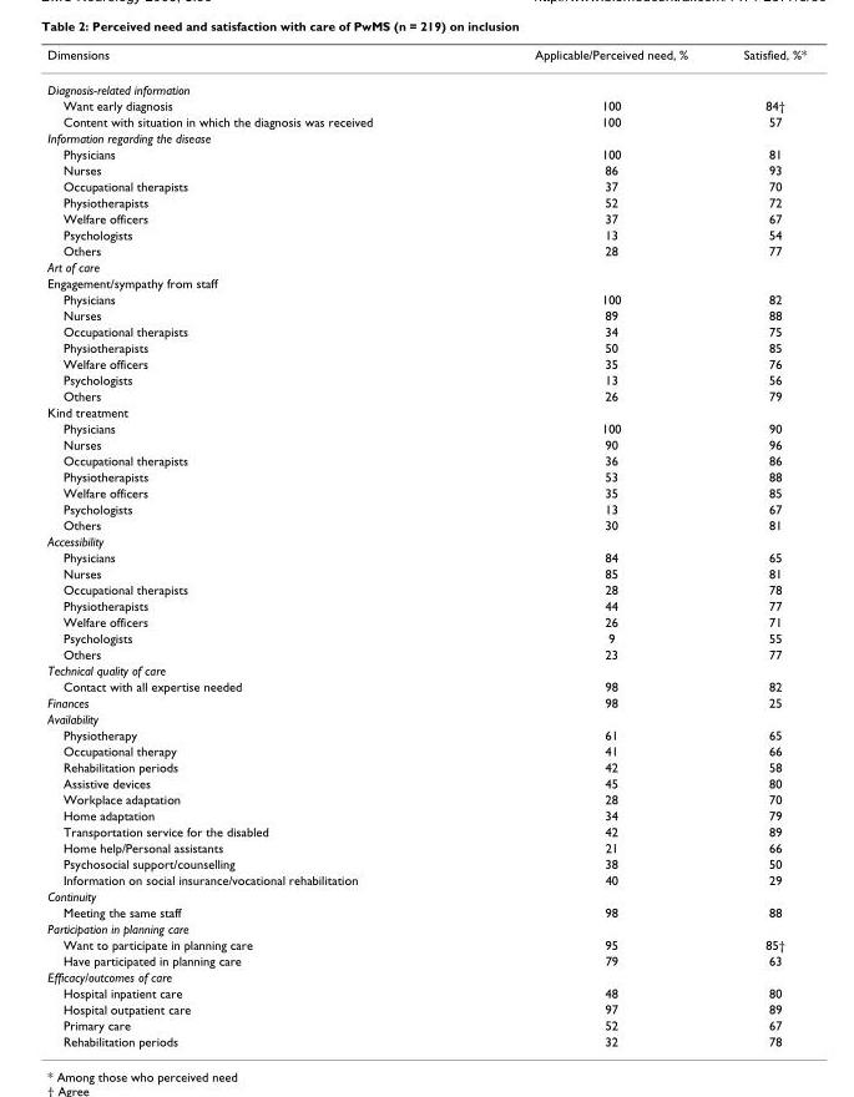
<table><thead><tr><td>Dimensions</td><td>Applicable/Perceived need, %</td><td>Satisfied, %*</td></tr></thead><tbody><tr><td colspan="3">Diagnosis-related information</td></tr><tr><td>Want early diagnosis</td><td>100</td><td>84†</td></tr><tr><td>Content with situation in which the diagnosis was received</td><td>100</td><td>57</td></tr><tr><td colspan="3">Information regarding the disease</td></tr><tr><td>Physicians</td><td>100</td><td>81</td></tr><tr><td>Nurses</td><td>86</td><td>93</td></tr><tr><td>Occupational therapists</td><td>37</td><td>70</td></tr><tr><td>Physiotherapists</td><td>52</td><td>72</td></tr><tr><td>Welfare officers</td><td>37</td><td>67</td></tr><tr><td>Psychologists</td><td>13</td><td>54</td></tr><tr><td>Others</td><td>28</td><td>77</td></tr><tr><td colspan="3">Art of care</td></tr><tr><td colspan="3">Engagement/sympathy from staff</td></tr><tr><td>Physicians</td><td>100</td><td>82</td></tr><tr><td>Nurses</td><td>89</td><td>88</td></tr><tr><td>Occupational therapists</td><td>34</td><td>75</td></tr><tr><td>Physiotherapists</td><td>50</td><td>85</td></tr><tr><td>Welfare officers</td><td>35</td><td>76</td></tr><tr><td>Psychologists</td><td>13</td><td>56</td></tr><tr><td>Others</td><td>26</td><td>79</td></tr><tr><td colspan="3">Kind treatment</td></tr><tr><td>Physicians</td><td>100</td><td>90</td></tr><tr><td>Nurses</td><td>90</td><td>96</td></tr><tr><td>Occupational therapists</td><td>36</td><td>86</td></tr><tr><td>Physiotherapists</td><td>53</td><td>88</td></tr><tr><td>Welfare officers</td><td>35</td><td>85</td></tr><tr><td>Psychologists</td><td>13</td><td>67</td></tr><tr><td>Others</td><td>30</td><td>81</td></tr><tr><td colspan="3">Accessibility</td></tr><tr><td>Physicians</td><td>84</td><td>65</td></tr><tr><td>Nurses</td><td>85</td><td>81</td></tr><tr><td>Occupational therapists</td><td>28</td><td>78</td></tr><tr><td>Physiotherapists</td><td>44</td><td>77</td></tr><tr><td>Welfare officers</td><td>26</td><td>71</td></tr><tr><td>Psychologists</td><td>9</td><td>55</td></tr><tr><td>Others</td><td>23</td><td>77</td></tr><tr><td colspan="3">Technical quality of care</td></tr><tr><td>Contact with all expertise needed</td><td>98</td><td>82</td></tr><tr><td>Finances</td><td>98</td><td>25</td></tr><tr><td colspan="3">Availability</td></tr><tr><td>Physiotherapy</td><td>61</td><td>65</td></tr><tr><td>Occupational therapy</td><td>41</td><td>66</td></tr><tr><td>Rehabilitation periods</td><td>42</td><td>58</td></tr><tr><td>Assistive devices</td><td>45</td><td>80</td></tr><tr><td>Workplace adaptation</td><td>28</td><td>70</td></tr><tr><td>Home adaptation</td><td>34</td><td>79</td></tr><tr><td>Transportation service for the disabled</td><td>42</td><td>89</td></tr><tr><td>Home help/Personal assistants</td><td>21</td><td>66</td></tr><tr><td>Psychosocial support/counselling</td><td>38</td><td>50</td></tr><tr><td>Information on social insurance/vocational rehabilitation</td><td>40</td><td>29</td></tr><tr><td colspan="3">Continuity</td></tr><tr><td>Meeting the same staff</td><td>98</td><td>88</td></tr><tr><td colspan="3">Participation in planning care</td></tr><tr><td>Want to participate in planning care</td><td>95</td><td>85†</td></tr><tr><td>Have participated in planning care</td><td>79</td><td>63</td></tr><tr><td colspan="3">Efficacy/outcomes of care</td></tr><tr><td>Hospital inpatient care</td><td>48</td><td>80</td></tr><tr><td>Hospital outpatient care</td><td>97</td><td>89</td></tr><tr><td>Primary care</td><td>52</td><td>67</td></tr><tr><td>Rehabilitation periods</td><td>32</td><td>78</td></tr></tbody></table>